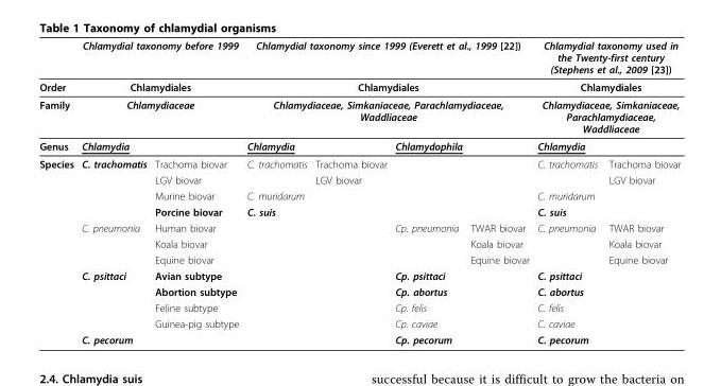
<table><thead><tr><td rowspan="4">Order Family Genus</td><td rowspan="3" colspan="2">Chlamydial taxonomy before 1999 Chlamydiales Chlamydiaceae</td><td rowspan="3" colspan="4">Chlamydial taxonomy since 1999 (Everett et al., 1999 [22]) Chlamydiales Chlamydiaceae, Simkaniaceae, Parachlamydiaceae, Waddliaceae</td><td rowspan="3" colspan="2">Chlamydial taxonomy used in the Twenty-first century (Stephens et al., 2009 [23]) Chlamydiales Chlamydiaceae, Simkaniaceae, Parachlamydiaceae, Waddliaceae</td></tr><tr></tr><tr></tr><tr><td>Chlamydia</td><td></td><td>Chlamydia</td><td></td><td>Chlamydophila</td><td></td><td>Chlamydia</td><td></td></tr></thead><tbody><tr><td rowspan="12">Species</td><td>C. trachomatis</td><td>Trachoma biovar</td><td>C. trachomatis</td><td>Trachoma biovar</td><td></td><td></td><td>C. trachomatis</td><td>Trachoma biovar</td></tr><tr><td></td><td>LGV biovar</td><td></td><td>LGV biovar</td><td></td><td></td><td></td><td>LGV biovar</td></tr><tr><td></td><td>Murine biovar</td><td>C. muridarum</td><td></td><td></td><td></td><td>C. muridarum</td><td></td></tr><tr><td></td><td>Porcine biovar</td><td>C. suis</td><td></td><td></td><td></td><td>C. suis</td><td></td></tr><tr><td>C. pneumonia</td><td>Human biovar</td><td></td><td></td><td>Cp. pneumonia</td><td>TWAR biovar</td><td>C. pneumonia</td><td>TWAR biovar</td></tr><tr><td></td><td>Koala biovar</td><td></td><td></td><td></td><td>Koala biovar</td><td></td><td>Koala biovar</td></tr><tr><td></td><td>Equine biovar</td><td></td><td></td><td></td><td>Equine biovar</td><td></td><td>Equine biovar</td></tr><tr><td>C. psittaci</td><td>Avian subtype</td><td></td><td></td><td>Cp. psittaci</td><td></td><td>C. psittaci</td><td></td></tr><tr><td></td><td>Abortion subtype</td><td></td><td></td><td>Cp. abortus</td><td></td><td>C. abortus</td><td></td></tr><tr><td></td><td>Feline subtype</td><td></td><td></td><td>Cp. felis</td><td></td><td>C. felis</td><td></td></tr><tr><td></td><td>Guinea-pig subtype</td><td></td><td></td><td>Cp. caviae</td><td></td><td>C. caviae</td><td></td></tr><tr><td>C. pecorum</td><td></td><td></td><td></td><td>Cp. pecorum</td><td></td><td>C. pecorum</td><td></td></tr></tbody></table>